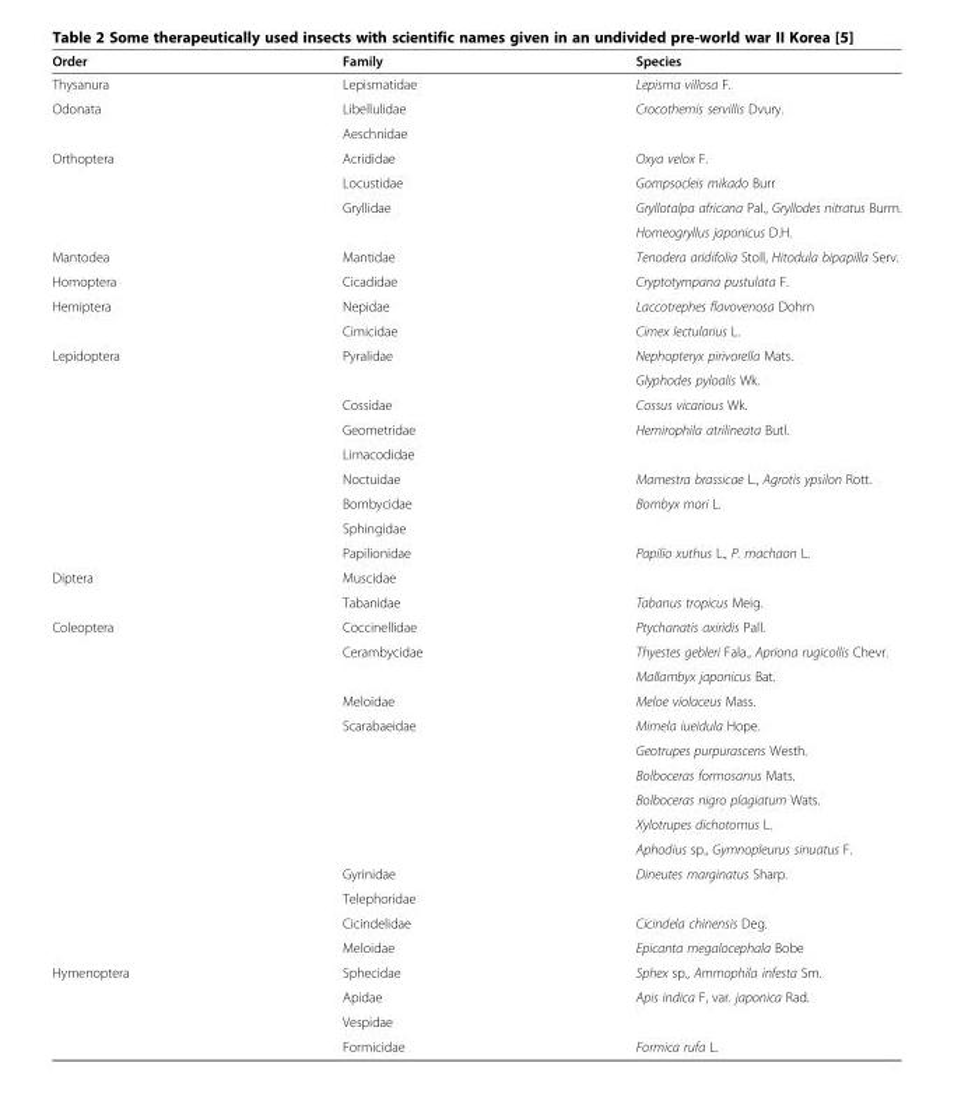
<table><thead><tr><td>Order</td><td>Family</td><td>Species</td></tr></thead><tbody><tr><td>Thysanura</td><td>Lepismatidae</td><td>Lepisma villosa F.</td></tr><tr><td rowspan="2">Odonata</td><td>Libellulidae</td><td>Crocothemis servillis Dvury.</td></tr><tr><td>Aeschnidae</td><td></td></tr><tr><td rowspan="4">Orthoptera</td><td>Acrididae</td><td>Oxya velox F.</td></tr><tr><td>Locustidae</td><td>Gompsocleis mikado Burr</td></tr><tr><td>Gryllidae</td><td>Gryllotalpa africana Pal., Gryllodes nitratus Burm.</td></tr><tr><td></td><td>Homeogryllus japonicus D.H.</td></tr><tr><td>Mantodea</td><td>Mantidae</td><td>Tenodera aridifolia Stoll, Hitodula bipapilla Serv.</td></tr><tr><td>Homoptera</td><td>Cicadidae</td><td>Cryptotympana pustulata F.</td></tr><tr><td rowspan="2">Hemiptera</td><td>Nepidae</td><td>Laccotrephes flavovenosa Dohrn</td></tr><tr><td>Cimicidae</td><td>Cimex lectularius L.</td></tr><tr><td rowspan="9">Lepidoptera</td><td>Pyralidae</td><td>Nephopteryx pirivorella Mats.</td></tr><tr><td></td><td>Glyphodes pyloalis Wk.</td></tr><tr><td>Cossidae</td><td>Cossus vicarious Wk.</td></tr><tr><td>Geometridae</td><td>Hemirophila atrilineata Butl.</td></tr><tr><td>Limacodidae</td><td></td></tr><tr><td>Noctuidae</td><td>Mamestra brassicae L., Agrotis ypsilon Rott.</td></tr><tr><td>Bombycidae</td><td>Bombyx mori L.</td></tr><tr><td>Sphingidae</td><td></td></tr><tr><td>Papilionidae</td><td>Papilio xuthus L., P. machaon L.</td></tr><tr><td rowspan="2">Diptera</td><td>Muscidae</td><td></td></tr><tr><td>Tabanidae</td><td>Tabanus tropicus Meig.</td></tr><tr><td rowspan="14">Coleoptera</td><td>Coccinellidae</td><td>Ptychanatis axiridis Pall.</td></tr><tr><td>Cerambycidae</td><td>Thyestes gebleri Fala., Apriona rugicollis Chevr.</td></tr><tr><td></td><td>Mallambyx japonicus Bat.</td></tr><tr><td>Meloidae</td><td>Meloe violaceus Mass.</td></tr><tr><td>Scarabaeidae</td><td>Mimela iueidula Hope.</td></tr><tr><td></td><td>Geotrupes purpurascens Westh.</td></tr><tr><td></td><td>Bolboceras formosanus Mats.</td></tr><tr><td></td><td>Bolboceras nigro plagiatum Wats.</td></tr><tr><td></td><td>Xylotrupes dichotomus L.</td></tr><tr><td></td><td>Aphodius sp., Gymnopleurus sinuatus F.</td></tr><tr><td>Gyrinidae</td><td>Dineutes marginatus Sharp.</td></tr><tr><td>Telephoridae</td><td></td></tr><tr><td>Cicindelidae</td><td>Cicindela chinensis Deg.</td></tr><tr><td>Meloidae</td><td>Epicanta megalocephala Bobe</td></tr><tr><td rowspan="4">Hymenoptera</td><td>Sphecidae</td><td>Sphex sp., Ammophila infesta Sm.</td></tr><tr><td>Apidae</td><td>Apis indica F, var. japonica Rad.</td></tr><tr><td>Vespidae</td><td></td></tr><tr><td>Formicidae</td><td>Formica rufa L.</td></tr></tbody></table>